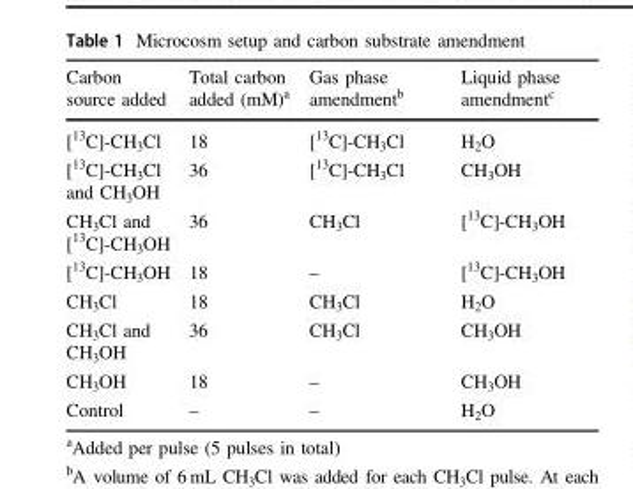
<table><thead><tr><td>Carbon source added</td><td>Total carbon added (mM)<sup>a</sup></td><td>Gas phase amendment<sup>b</sup></td><td>Liquid phase amendment<sup>c</sup></td></tr></thead><tbody><tr><td>[<sup>13</sup>C]-CH<sub>3</sub>Cl</td><td>18</td><td>[<sup>13</sup>C]-CH<sub>3</sub>Cl</td><td>H<sub>2</sub>O</td></tr><tr><td>[<sup>13</sup>C]-CH<sub>3</sub>Cl and CH<sub>3</sub>OH</td><td>36</td><td>[<sup>13</sup>C]-CH<sub>3</sub>Cl</td><td>CH<sub>3</sub>OH</td></tr><tr><td>CH<sub>3</sub>Cl and [<sup>13</sup>C]-CH<sub>3</sub>OH</td><td>36</td><td>CH<sub>3</sub>Cl</td><td>[<sup>13</sup>C]-CH<sub>3</sub>OH</td></tr><tr><td>[<sup>13</sup>C]-CH<sub>3</sub>OH</td><td>18</td><td>–</td><td>[<sup>13</sup>C]-CH<sub>3</sub>OH</td></tr><tr><td>CH<sub>3</sub>Cl</td><td>18</td><td>CH<sub>3</sub>Cl</td><td>H<sub>2</sub>O</td></tr><tr><td>CH<sub>3</sub>Cl and CH<sub>3</sub>OH</td><td>36</td><td>CH<sub>3</sub>Cl</td><td>CH<sub>3</sub>OH</td></tr><tr><td>CH<sub>3</sub>OH</td><td>18</td><td>–</td><td>CH<sub>3</sub>OH</td></tr><tr><td>Control</td><td>–</td><td>–</td><td>H<sub>2</sub>O</td></tr></tbody></table>